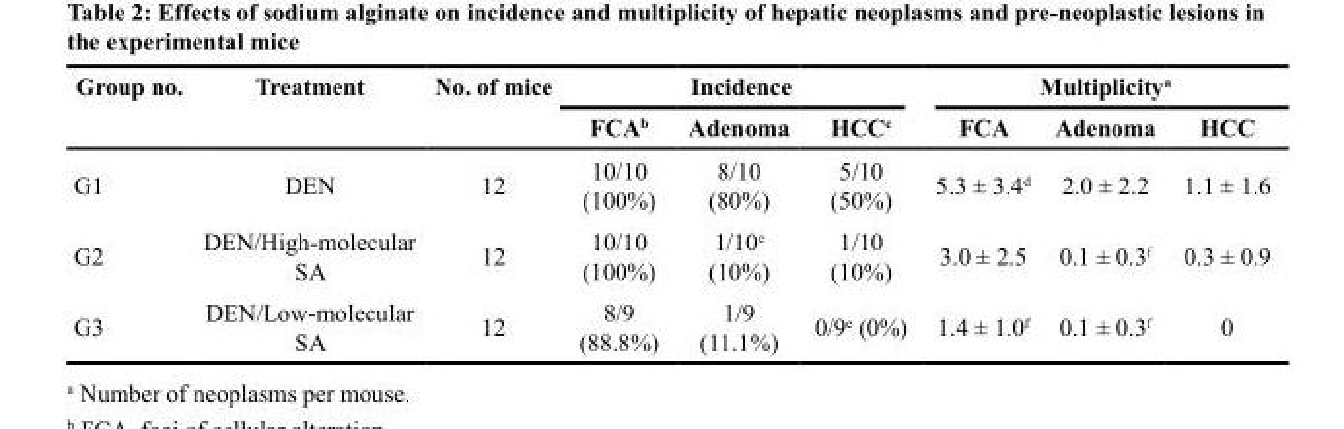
<table><thead><tr><td rowspan="2">Group no.</td><td rowspan="2">Treatment</td><td rowspan="2">No. of mice</td><td colspan="3">Incidence</td><td colspan="3">Multiplicity <sup>a</sup></td></tr><tr><td>FCA <sup>b</sup></td><td>Adenoma</td><td>HCC <sup>c</sup></td><td>FCA</td><td>Adenoma</td><td>HCC</td></tr></thead><tbody><tr><td>G1</td><td>DEN</td><td>12</td><td>10/10 (100%)</td><td>8/10 (80%)</td><td>5/10 (50%)</td><td>5.3 ± 3.4 <sup>d</sup></td><td>2.0 ± 2.2</td><td>1.1 ± 1.6</td></tr><tr><td>G2</td><td>DEN/High-molecular SA</td><td>12</td><td>10/10 (100%)</td><td>1/10 <sup>e</sup> (10%)</td><td>1/10 (10%)</td><td>3.0 ± 2.5</td><td>0.1 ± 0.3 <sup>f</sup></td><td>0.3 ± 0.9</td></tr><tr><td>G3</td><td>DEN/Low-molecular SA</td><td>12</td><td>8/9 (88.8%)</td><td>1/9 (11.1%)</td><td>0/9 <sup>e</sup> (0%)</td><td>1.4 ± 1.0 <sup>f</sup></td><td>0.1 ± 0.3 <sup>f</sup></td><td>0</td></tr></tbody></table>